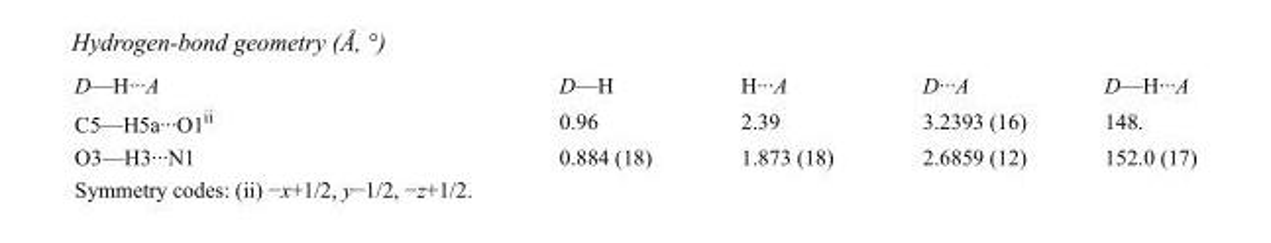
<table><tbody><tr><td>D—H···A</td><td>D—H</td><td>H···A</td><td>D···A</td><td>D—H···A</td></tr><tr><td>C5—H5a···O1<sup>ii</sup></td><td>0.96</td><td>2.39</td><td>3.2393 (16)</td><td>148.</td></tr><tr><td>O3—H3···N1</td><td>0.884 (18)</td><td>1.873 (18)</td><td>2.6859 (12)</td><td>152.0 (17)</td></tr></tbody></table>